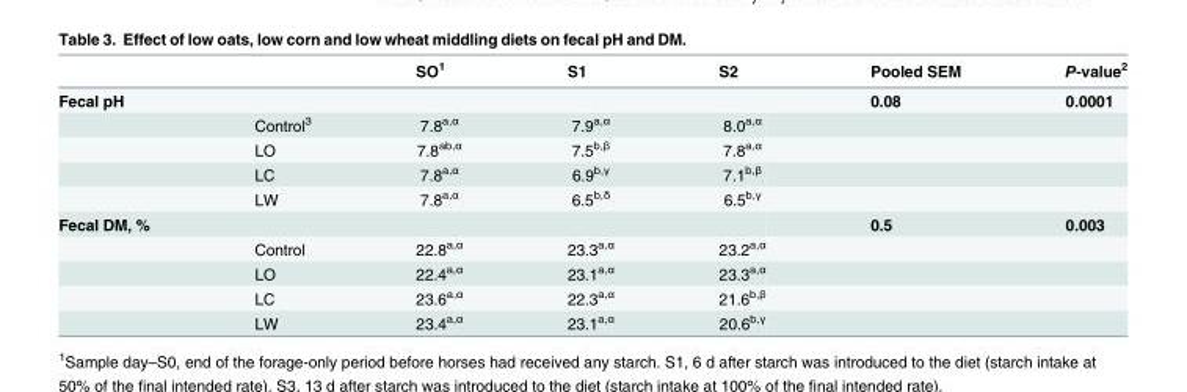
<table><thead><tr><td></td><td></td><td>SO<sup>1</sup></td><td>S1</td><td>S2</td><td>Pooled SEM</td><td>P-value<sup>2</sup></td></tr></thead><tbody><tr><td rowspan="5">Fecal pH</td><td></td><td></td><td></td><td></td><td>0.08</td><td>0.0001</td></tr><tr><td>Control<sup>3</sup></td><td>7.8<sup>a,α</sup></td><td>7.9<sup>a,α</sup></td><td>8.0<sup>a,α</sup></td><td></td><td></td></tr><tr><td>LO</td><td>7.8<sup>ab,α</sup></td><td>7.5<sup>b,β</sup></td><td>7.8<sup>a,α</sup></td><td></td><td></td></tr><tr><td>LC</td><td>7.8<sup>a,α</sup></td><td>6.9<sup>b,γ</sup></td><td>7.1<sup>b,β</sup></td><td></td><td></td></tr><tr><td>LW</td><td>7.8<sup>a,α</sup></td><td>6.5<sup>b,δ</sup></td><td>6.5<sup>b,γ</sup></td><td></td><td></td></tr><tr><td rowspan="5">Fecal DM, %</td><td></td><td></td><td></td><td></td><td>0.5</td><td>0.003</td></tr><tr><td>Control</td><td>22.8<sup>a,α</sup></td><td>23.3<sup>a,α</sup></td><td>23.2<sup>a,α</sup></td><td></td><td></td></tr><tr><td>LO</td><td>22.4<sup>a,α</sup></td><td>23.1<sup>a,α</sup></td><td>23.3<sup>a,α</sup></td><td></td><td></td></tr><tr><td>LC</td><td>23.6<sup>a,α</sup></td><td>22.3<sup>a,α</sup></td><td>21.6<sup>b,β</sup></td><td></td><td></td></tr><tr><td>LW</td><td>23.4<sup>a,α</sup></td><td>23.1<sup>a,α</sup></td><td>20.6<sup>b,γ</sup></td><td></td><td></td></tr></tbody></table>